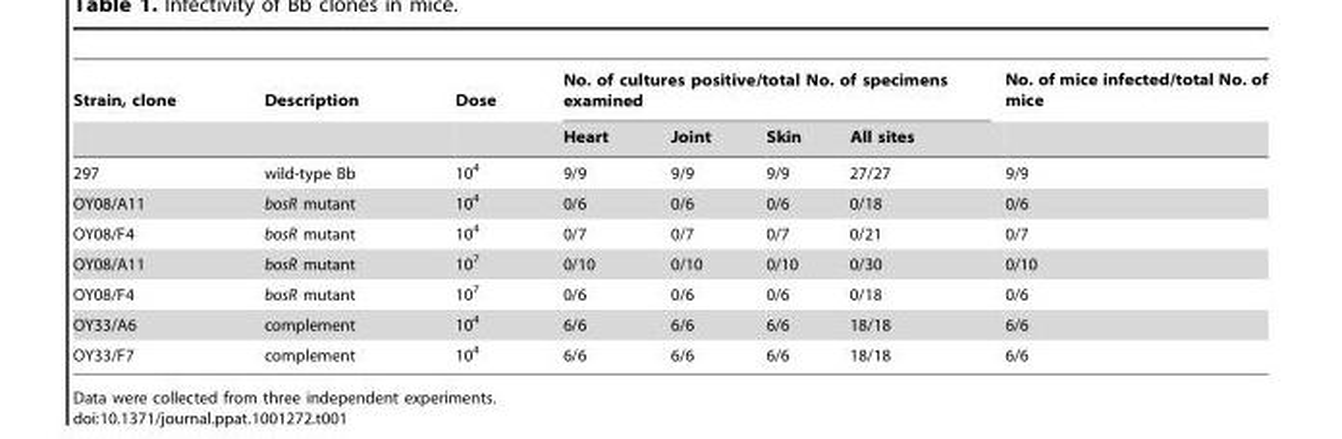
<table><thead><tr><td rowspan="2">Strain, clone</td><td rowspan="2">Description</td><td rowspan="2">Dose</td><td colspan="4">No. of cultures positive/total No. of specimens examined</td><td rowspan="2">No. of mice infected/total No. of mice</td></tr><tr><td>Heart</td><td>Joint</td><td>Skin</td><td>All sites</td></tr></thead><tbody><tr><td>297</td><td>wild-type Bb</td><td>10<sup>4</sup></td><td>9/9</td><td>9/9</td><td>9/9</td><td>27/27</td><td>9/9</td></tr><tr><td>OY08/A11</td><td>bosR mutant</td><td>10<sup>4</sup></td><td>0/6</td><td>0/6</td><td>0/6</td><td>0/18</td><td>0/6</td></tr><tr><td>OY08/F4</td><td>bosR mutant</td><td>10<sup>4</sup></td><td>0/7</td><td>0/7</td><td>0/7</td><td>0/21</td><td>0/7</td></tr><tr><td>OY08/A11</td><td>bosR mutant</td><td>10<sup>7</sup></td><td>0/10</td><td>0/10</td><td>0/10</td><td>0/30</td><td>0/10</td></tr><tr><td>OY08/F4</td><td>bosR mutant</td><td>10<sup>7</sup></td><td>0/6</td><td>0/6</td><td>0/6</td><td>0/18</td><td>0/6</td></tr><tr><td>OY33/A6</td><td>complement</td><td>10<sup>4</sup></td><td>6/6</td><td>6/6</td><td>6/6</td><td>18/18</td><td>6/6</td></tr><tr><td>OY33/F7</td><td>complement</td><td>10<sup>4</sup></td><td>6/6</td><td>6/6</td><td>6/6</td><td>18/18</td><td>6/6</td></tr></tbody></table>